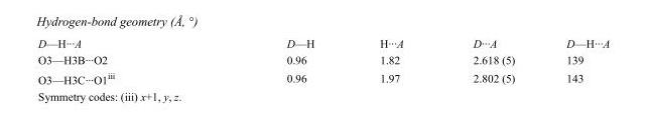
<table><tbody><tr><td>D—H···A</td><td>D—H</td><td>H···A</td><td>D···A</td><td>D—H···A</td></tr><tr><td>O3—H3B···O2</td><td>0.96</td><td>1.82</td><td>2.618 (5)</td><td>139</td></tr><tr><td>O3—H3C···O1<sup>iii</sup></td><td>0.96</td><td>1.97</td><td>2.802 (5)</td><td>143</td></tr></tbody></table>